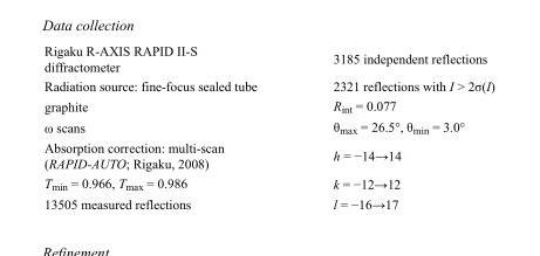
<table><tbody><tr><td>Rigaku R-AXIS RAPID II-S diffractometer</td><td>3185 independent reflections</td></tr><tr><td>Radiation source: fine-focus sealed tube</td><td>2321 reflections with I &gt; 2σ(I)</td></tr><tr><td>graphite</td><td>R<sub>int</sub> = 0.077</td></tr><tr><td>ω scans</td><td>θ<sub>max</sub> = 26.5°, θ<sub>min</sub> = 3.0°</td></tr><tr><td>Absorption correction: multi-scan (RAPID-AUTO; Rigaku, 2008)</td><td>h = −14→14</td></tr><tr><td>T<sub>min</sub> = 0.966, T<sub>max</sub> = 0.986</td><td>k = −12→12</td></tr><tr><td>13505 measured reflections</td><td>l = −16→17</td></tr></tbody></table>